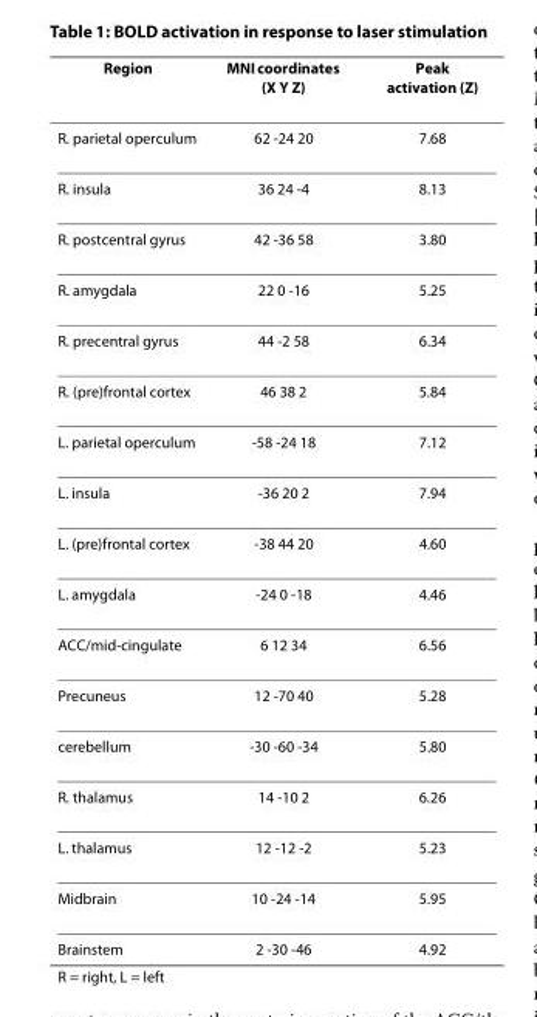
<table><thead><tr><td>Region</td><td>MNI coordinates (X Y Z)</td><td>Peak activation (Z)</td></tr></thead><tbody><tr><td>R. parietal operculum</td><td>62 -24 20</td><td>7.68</td></tr><tr><td>R. insula</td><td>36 24 -4</td><td>8.13</td></tr><tr><td>R. postcentral gyrus</td><td>42 -36 58</td><td>3.80</td></tr><tr><td>R. amygdala</td><td>22 0 -16</td><td>5.25</td></tr><tr><td>R. precentral gyrus</td><td>44 -2 58</td><td>6.34</td></tr><tr><td>R. (pre)frontal cortex</td><td>46 38 2</td><td>5.84</td></tr><tr><td>L. parietal operculum</td><td>-58 -24 18</td><td>7.12</td></tr><tr><td>L. insula</td><td>-36 20 2</td><td>7.94</td></tr><tr><td>L. (pre)frontal cortex</td><td>-38 44 20</td><td>4.60</td></tr><tr><td>L. amygdala</td><td>-24 0 -18</td><td>4.46</td></tr><tr><td>ACC/mid-cingulate</td><td>6 12 34</td><td>6.56</td></tr><tr><td>Precuneus</td><td>12 -70 40</td><td>5.28</td></tr><tr><td>cerebellum</td><td>-30 -60 -34</td><td>5.80</td></tr><tr><td>R. thalamus</td><td>14 -10 2</td><td>6.26</td></tr><tr><td>L. thalamus</td><td>12 -12 -2</td><td>5.23</td></tr><tr><td>Midbrain</td><td>10 -24 -14</td><td>5.95</td></tr><tr><td>Brainstem</td><td>2 -30 -46</td><td>4.92</td></tr></tbody></table>